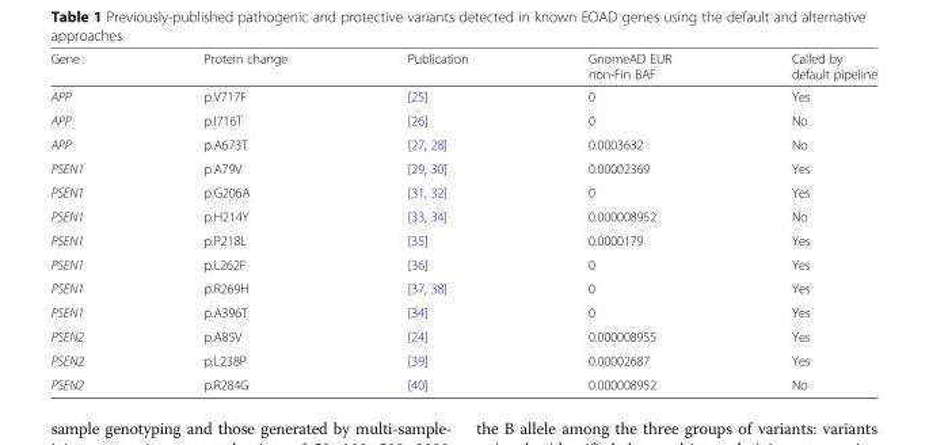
<table><thead><tr><td>Gene</td><td>Protein change</td><td>Publication</td><td>GnomeAD EUR non-Fin BAF</td><td>Called by default pipeline</td></tr></thead><tbody><tr><td>APP</td><td>p.V717F</td><td>[25]</td><td>0</td><td>Yes</td></tr><tr><td>APP</td><td>p.I716T</td><td>[26]</td><td>0</td><td>No</td></tr><tr><td>APP</td><td>p.A673T</td><td>[27, 28]</td><td>0.0003632</td><td>No</td></tr><tr><td>PSEN1</td><td>p.A79V</td><td>[29, 30]</td><td>0.00002369</td><td>Yes</td></tr><tr><td>PSEN1</td><td>p.G206A</td><td>[31, 32]</td><td>0</td><td>Yes</td></tr><tr><td>PSEN1</td><td>p.H214Y</td><td>[33, 34]</td><td>0.000008952</td><td>No</td></tr><tr><td>PSEN1</td><td>p.P218L</td><td>[35]</td><td>0.0000179</td><td>Yes</td></tr><tr><td>PSEN1</td><td>p.L262F</td><td>[36]</td><td>0</td><td>Yes</td></tr><tr><td>PSEN1</td><td>p.R269H</td><td>[37, 38]</td><td>0</td><td>Yes</td></tr><tr><td>PSEN1</td><td>p.A396T</td><td>[34]</td><td>0</td><td>Yes</td></tr><tr><td>PSEN2</td><td>p.A85V</td><td>[24]</td><td>0.000008955</td><td>Yes</td></tr><tr><td>PSEN2</td><td>p.L238P</td><td>[39]</td><td>0.00002687</td><td>Yes</td></tr><tr><td>PSEN2</td><td>p.R284G</td><td>[40]</td><td>0.000008952</td><td>No</td></tr></tbody></table>